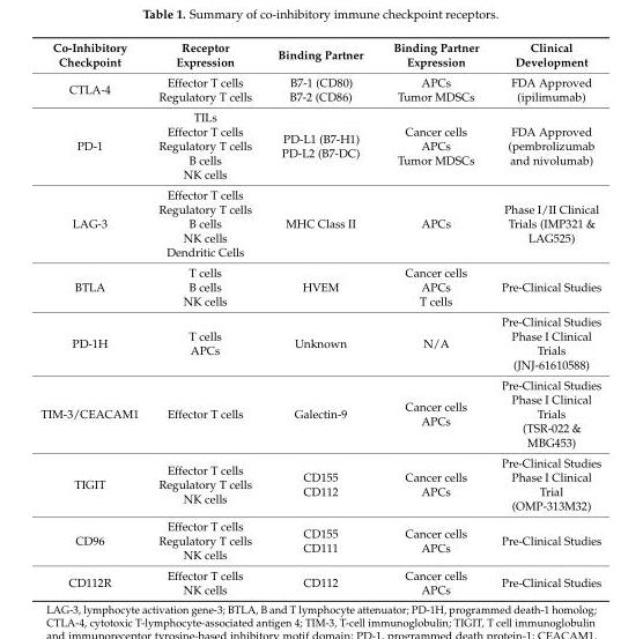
<table><thead><tr><td>Co-Inhibitory Checkpoint</td><td>Receptor Expression</td><td>Binding Partner</td><td>Binding Partner Expression</td><td>Clinical Development</td></tr></thead><tbody><tr><td>CTLA-4</td><td>Effector T cells Regulatory T cells</td><td>B7-1 (CD80) B7-2 (CD86)</td><td>APCs Tumor MDSCs</td><td>FDA Approved (ipilimumab)</td></tr><tr><td>PD-1</td><td>TILs Effector T cells Regulatory T cells B cells NK cells</td><td>PD-L1 (B7-H1) PD-L2 (B7-DC)</td><td>Cancer cells APCs Tumor MDSCs</td><td>FDA Approved (pembrolizumab and nivolumab)</td></tr><tr><td>LAG-3</td><td>Effector T cells Regulatory T cells B cells NK cells Dendritic Cells</td><td>MHC Class II</td><td>APCs</td><td>Phase I/II Clinical Trials (IMP321 &amp; LAG525)</td></tr><tr><td>BTLA</td><td>T cells B cells NK cells</td><td>HVEM</td><td>Cancer cells APCs T cells</td><td>Pre-Clinical Studies</td></tr><tr><td>PD-1H</td><td>T cells APCs</td><td>Unknown</td><td>N/A</td><td>Pre-Clinical Studies Phase I Clinical Trials (JNJ-61610588)</td></tr><tr><td>TIM-3/CEACAM1</td><td>Effector T cells</td><td>Galectin-9</td><td>Cancer cells APCs</td><td>Pre-Clinical Studies Phase I Clinical Trials (TSR-022 &amp; MBG453)</td></tr><tr><td>TIGIT</td><td>Effector T cells Regulatory T cells NK cells</td><td>CD155 CD112</td><td>Cancer cells APCs</td><td>Pre-Clinical Studies Phase I Clinical Trial (OMP-313M32)</td></tr><tr><td>CD96</td><td>Effector T cells Regulatory T cells NK cells</td><td>CD155 CD111</td><td>Cancer cells APCs</td><td>Pre-Clinical Studies</td></tr><tr><td>CD112R</td><td>Effector T cells NK cells</td><td>CD112</td><td>Cancer cells APCs</td><td>Pre-Clinical Studies</td></tr></tbody></table>